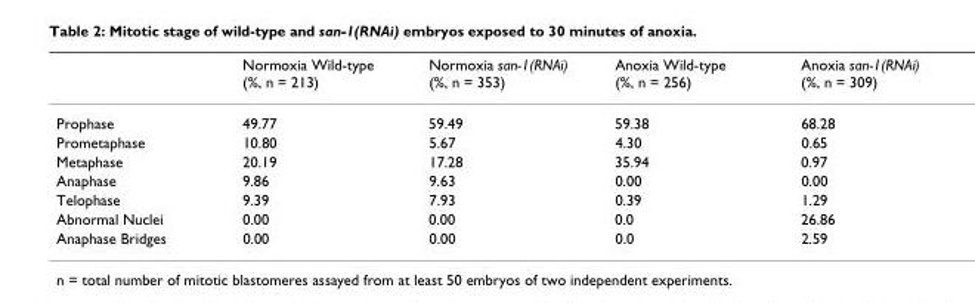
<table><thead><tr><td></td><td>Normoxia Wild-type (%, n = 213)</td><td>Normoxia san-1(RNAi) (%, n = 353)</td><td>Anoxia Wild-type (%, n = 256)</td><td>Anoxia san-1(RNAi) (%, n = 309)</td></tr></thead><tbody><tr><td>Prophase</td><td>49.77</td><td>59.49</td><td>59.38</td><td>68.28</td></tr><tr><td>Prometaphase</td><td>10.80</td><td>5.67</td><td>4.30</td><td>0.65</td></tr><tr><td>Metaphase</td><td>20.19</td><td>17.28</td><td>35.94</td><td>0.97</td></tr><tr><td>Anaphase</td><td>9.86</td><td>9.63</td><td>0.00</td><td>0.00</td></tr><tr><td>Telophase</td><td>9.39</td><td>7.93</td><td>0.39</td><td>1.29</td></tr><tr><td>Abnormal Nuclei</td><td>0.00</td><td>0.00</td><td>0.0</td><td>26.86</td></tr><tr><td>Anaphase Bridges</td><td>0.00</td><td>0.00</td><td>0.0</td><td>2.59</td></tr></tbody></table>